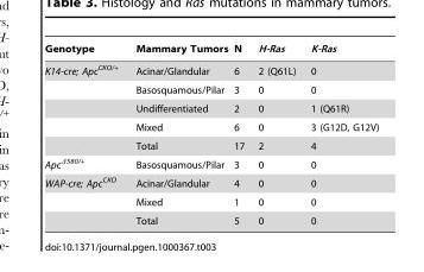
<table><thead><tr><td>Genotype</td><td>Mammary Tumors</td><td>N</td><td>H-Ras</td><td>K-Ras</td></tr></thead><tbody><tr><td rowspan="5">K14-cre; Apc<sup>CKO/+</sup></td><td>Acinar/Glandular</td><td>6</td><td>2 (Q61L)</td><td>0</td></tr><tr><td>Basosquamous/Pilar</td><td>3</td><td>0</td><td>0</td></tr><tr><td>Undifferentiated</td><td>2</td><td>0</td><td>1 (Q61R)</td></tr><tr><td>Mixed</td><td>6</td><td>0</td><td>3 (G12D, G12V)</td></tr><tr><td>Total</td><td>17</td><td>2</td><td>4</td></tr><tr><td>Apc<sup>Δ580/+</sup></td><td>Basosquamous/Pilar</td><td>3</td><td>0</td><td>0</td></tr><tr><td rowspan="3">WAP-cre; Apc<sup>CKO</sup></td><td>Acinar/Glandular</td><td>4</td><td>0</td><td>0</td></tr><tr><td>Mixed</td><td>1</td><td>0</td><td>0</td></tr><tr><td>Total</td><td>5</td><td>0</td><td>0</td></tr></tbody></table>